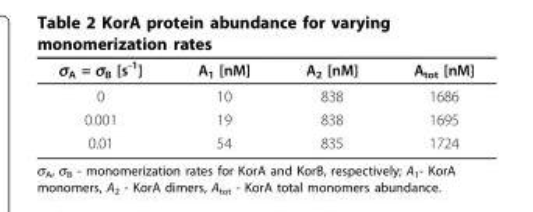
<table><thead><tr><td>σ<sub>A</sub> = σ<sub>B</sub> [s<sup>-1</sup>]</td><td>A<sub>1</sub> [nM]</td><td>A<sub>2</sub> [nM]</td><td>A<sub>tot</sub> [nM]</td></tr></thead><tbody><tr><td>0</td><td>10</td><td>838</td><td>1686</td></tr><tr><td>0.001</td><td>19</td><td>838</td><td>1695</td></tr><tr><td>0.01</td><td>54</td><td>835</td><td>1724</td></tr></tbody></table>